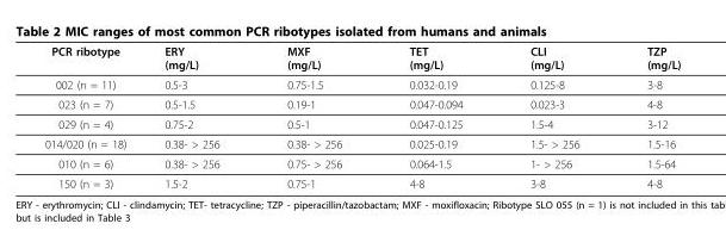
<table><thead><tr><td>PCR ribotype</td><td>ERY (mg/L)</td><td>MXF (mg/L)</td><td>TET (mg/L)</td><td>CLI (mg/L)</td><td>TZP (mg/L)</td></tr></thead><tbody><tr><td>002 (n = 11)</td><td>0.5-3</td><td>0.75-1.5</td><td>0.032-0.19</td><td>0.125-8</td><td>3-8</td></tr><tr><td>023 (n = 7)</td><td>0.5-1.5</td><td>0.19-1</td><td>0.047-0.094</td><td>0.023-3</td><td>4-8</td></tr><tr><td>029 (n = 4)</td><td>0.75-2</td><td>0.5-1</td><td>0.047-0.125</td><td>1.5-4</td><td>3-12</td></tr><tr><td>014/020 (n = 18)</td><td>0.38- &gt; 256</td><td>0.38- &gt; 256</td><td>0.025-0.19</td><td>1.5- &gt; 256</td><td>1.5-16</td></tr><tr><td>010 (n = 6)</td><td>0.38- &gt; 256</td><td>0.75- &gt; 256</td><td>0.064-1.5</td><td>1- &gt; 256</td><td>1.5-64</td></tr><tr><td>150 (n = 3)</td><td>1.5-2</td><td>0.75-1</td><td>4-8</td><td>3-8</td><td>4-8</td></tr></tbody></table>